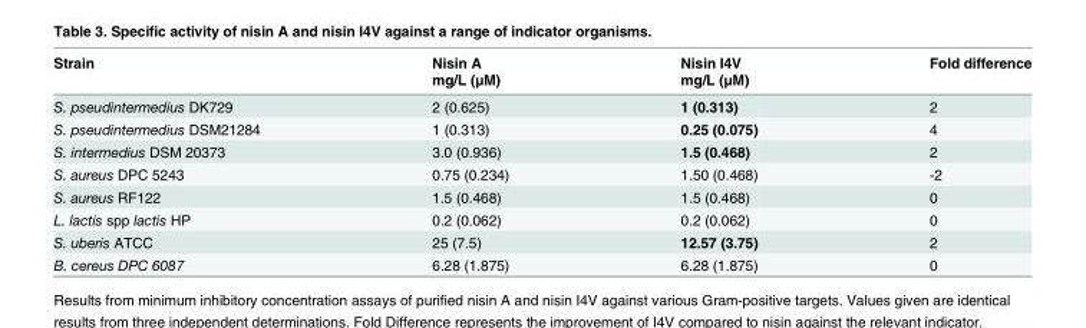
<table><thead><tr><td rowspan="2">Strain</td><td rowspan="2">Nisin A mg/L (μM)</td><td rowspan="2">Nisin I4V mg/L (μM)</td><td rowspan="2">Fold difference</td></tr><tr></tr></thead><tbody><tr><td>S. pseudintermedius DK729</td><td>2 (0.625)</td><td>1 (0.313)</td><td>2</td></tr><tr><td>S. pseudintermedius DSM21284</td><td>1 (0.313)</td><td>0.25 (0.075)</td><td>4</td></tr><tr><td>S. intermedius DSM 20373</td><td>3.0 (0.936)</td><td>1.5 (0.468)</td><td>2</td></tr><tr><td>S. aureus DPC 5243</td><td>0.75 (0.234)</td><td>1.50 (0.468)</td><td>-2</td></tr><tr><td>S. aureus RF122</td><td>1.5 (0.468)</td><td>1.5 (0.468)</td><td>0</td></tr><tr><td>L. lactis spp lactis HP</td><td>0.2 (0.062)</td><td>0.2 (0.062)</td><td>0</td></tr><tr><td>S. uberis ATCC</td><td>25 (7.5)</td><td>12.57 (3.75)</td><td>2</td></tr><tr><td>B. cereus DPC 6087</td><td>6.28 (1.875)</td><td>6.28 (1.875)</td><td>0</td></tr></tbody></table>